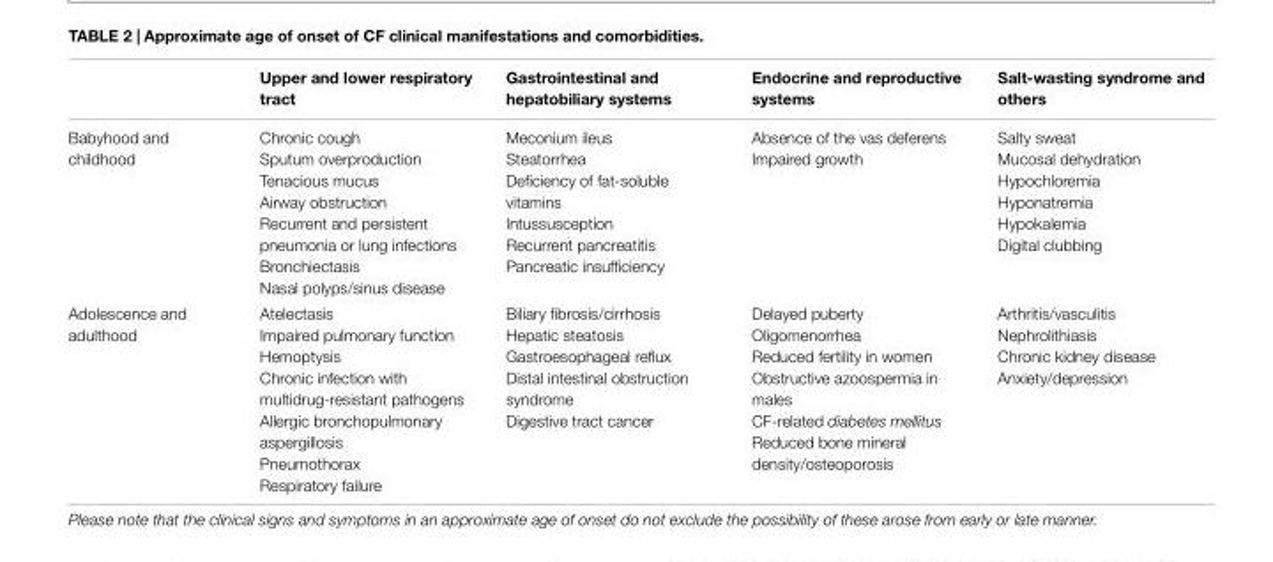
<table><thead><tr><td></td><td>Upper and lower respiratory tract</td><td>Gastrointestinal and hepatobiliary systems</td><td>Endocrine and reproductive systems</td><td>Salt-wasting syndrome and others</td></tr></thead><tbody><tr><td>Babyhood and childhood</td><td>Chronic cough Sputum overproduction Tenacious mucus Airway obstruction Recurrent and persistent pneumonia or lung infections Bronchiectasis Nasal polyps/sinus disease</td><td>Meconium ileus Steatorrhea Deficiency of fat-soluble vitamins Intussusception Recurrent pancreatitis Pancreatic insufficiency</td><td>Absence of the vas deferens Impaired growth</td><td>Salty sweat Mucosal dehydration Hypochloremia Hyponatremia Hypokalemia Digital clubbing</td></tr><tr><td>Adolescence and adulthood</td><td>Atelectasis Impaired pulmonary function Hemoptysis Chronic infection with multidrug-resistant pathogens Allergic bronchopulmonary aspergillosis Pneumothorax Respiratory failure</td><td>Biliary fibrosis/cirrhosis Hepatic steatosis Gastroesophageal reflux Distal intestinal obstruction syndrome Digestive tract cancer</td><td>Delayed puberty Oligomenorrhea Reduced fertility in women Obstructive azoospermia in males CF-related diabetes mellitus Reduced bone mineral density/osteoporosis</td><td>Arthritis/vasculitis Nephrolithiasis Chronic kidney disease Anxiety/depression</td></tr></tbody></table>